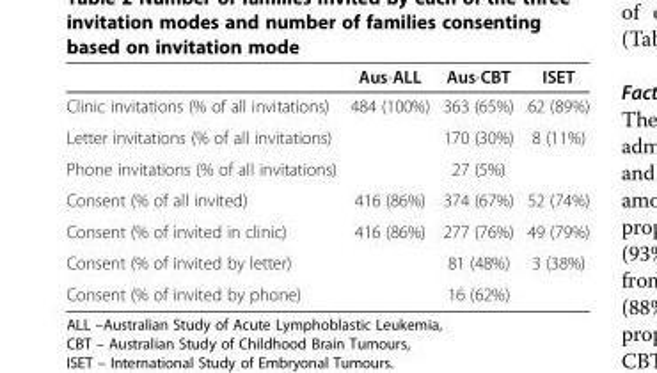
<table><thead><tr><td></td><td>Aus-ALL</td><td>Aus-CBT</td><td>ISET</td></tr></thead><tbody><tr><td>Clinic invitations (% of all invitations)</td><td>484 (100%)</td><td>363 (65%)</td><td>62 (89%)</td></tr><tr><td>Letter invitations (% of all invitations)</td><td></td><td>170 (30%)</td><td>8 (11%)</td></tr><tr><td>Phone invitations (% of all invitations)</td><td></td><td>27 (5%)</td><td></td></tr><tr><td>Consent (% of all invited)</td><td>416 (86%)</td><td>374 (67%)</td><td>52 (74%)</td></tr><tr><td>Consent (% of invited in clinic)</td><td>416 (86%)</td><td>277 (76%)</td><td>49 (79%)</td></tr><tr><td>Consent (% of invited by letter)</td><td></td><td>81 (48%)</td><td>3 (38%)</td></tr><tr><td>Consent (% of invited by phone)</td><td></td><td>16 (62%)</td><td></td></tr></tbody></table>